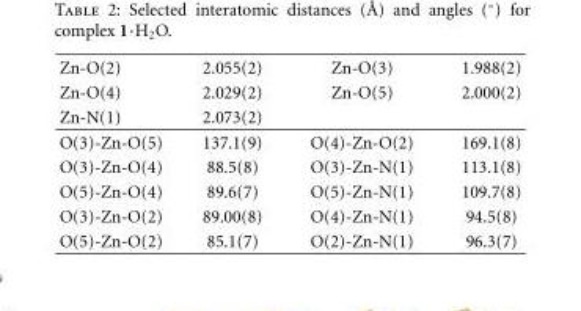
<table><tbody><tr><td>Zn-O(2)</td><td>2.055(2)</td><td>Zn-O(3)</td><td>1.988(2)</td></tr><tr><td>Zn-O(4)</td><td>2.029(2)</td><td>Zn-O(5)</td><td>2.000(2)</td></tr><tr><td>Zn-N(1)</td><td>2.073(2)</td><td></td><td></td></tr><tr><td>O(3)-Zn-O(5)</td><td>137.1(9)</td><td>O(4)-Zn-O(2)</td><td>169.1(8)</td></tr><tr><td>O(3)-Zn-O(4)</td><td>88.5(8)</td><td>O(3)-Zn-N(1)</td><td>113.1(8)</td></tr><tr><td>O(5)-Zn-O(4)</td><td>89.6(7)</td><td>O(5)-Zn-N(1)</td><td>109.7(8)</td></tr><tr><td>O(3)-Zn-O(2)</td><td>89.00(8)</td><td>O(4)-Zn-N(1)</td><td>94.5(8)</td></tr><tr><td>O(5)-Zn-O(2)</td><td>85.1(7)</td><td>O(2)-Zn-N(1)</td><td>96.3(7)</td></tr></tbody></table>